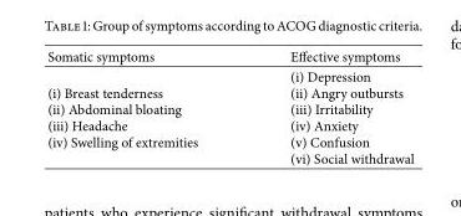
<table><thead><tr><td>Somatic symptoms</td><td>Effective symptoms</td></tr></thead><tbody><tr><td>(i) Breast tenderness (ii) Abdominal bloating (iii) Headache (iv) Swelling of extremities</td><td>(i) Depression (ii) Angry outbursts (iii) Irritability (iv) Anxiety (v) Confusion (vi) Social withdrawal</td></tr></tbody></table>